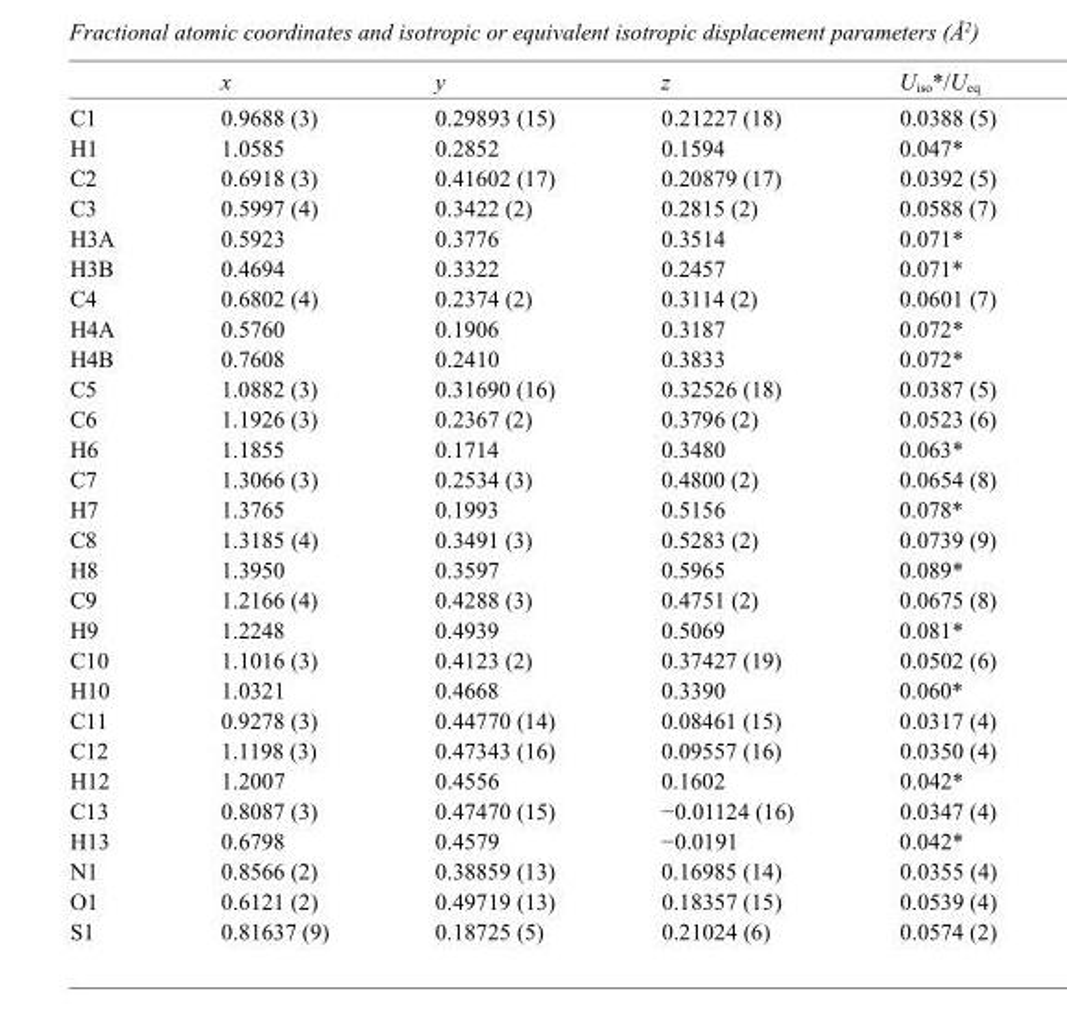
<table><thead><tr><td></td><td>x</td><td>y</td><td>z</td><td>U<sub>iso</sub>*/U<sub>eq</sub></td></tr></thead><tbody><tr><td>C1</td><td>0.9688 (3)</td><td>0.29893 (15)</td><td>0.21227 (18)</td><td>0.0388 (5)</td></tr><tr><td>H1</td><td>1.0585</td><td>0.2852</td><td>0.1594</td><td>0.047*</td></tr><tr><td>C2</td><td>0.6918 (3)</td><td>0.41602 (17)</td><td>0.20879 (17)</td><td>0.0392 (5)</td></tr><tr><td>C3</td><td>0.5997 (4)</td><td>0.3422 (2)</td><td>0.2815 (2)</td><td>0.0588 (7)</td></tr><tr><td>H3A</td><td>0.5923</td><td>0.3776</td><td>0.3514</td><td>0.071*</td></tr><tr><td>H3B</td><td>0.4694</td><td>0.3322</td><td>0.2457</td><td>0.071*</td></tr><tr><td>C4</td><td>0.6802 (4)</td><td>0.2374 (2)</td><td>0.3114 (2)</td><td>0.0601 (7)</td></tr><tr><td>H4A</td><td>0.5760</td><td>0.1906</td><td>0.3187</td><td>0.072*</td></tr><tr><td>H4B</td><td>0.7608</td><td>0.2410</td><td>0.3833</td><td>0.072*</td></tr><tr><td>C5</td><td>1.0882 (3)</td><td>0.31690 (16)</td><td>0.32526 (18)</td><td>0.0387 (5)</td></tr><tr><td>C6</td><td>1.1926 (3)</td><td>0.2367 (2)</td><td>0.3796 (2)</td><td>0.0523 (6)</td></tr><tr><td>H6</td><td>1.1855</td><td>0.1714</td><td>0.3480</td><td>0.063*</td></tr><tr><td>C7</td><td>1.3066 (3)</td><td>0.2534 (3)</td><td>0.4800 (2)</td><td>0.0654 (8)</td></tr><tr><td>H7</td><td>1.3765</td><td>0.1993</td><td>0.5156</td><td>0.078*</td></tr><tr><td>C8</td><td>1.3185 (4)</td><td>0.3491 (3)</td><td>0.5283 (2)</td><td>0.0739 (9)</td></tr><tr><td>H8</td><td>1.3950</td><td>0.3597</td><td>0.5965</td><td>0.089*</td></tr><tr><td>C9</td><td>1.2166 (4)</td><td>0.4288 (3)</td><td>0.4751 (2)</td><td>0.0675 (8)</td></tr><tr><td>H9</td><td>1.2248</td><td>0.4939</td><td>0.5069</td><td>0.081*</td></tr><tr><td>C10</td><td>1.1016 (3)</td><td>0.4123 (2)</td><td>0.37427 (19)</td><td>0.0502 (6)</td></tr><tr><td>H10</td><td>1.0321</td><td>0.4668</td><td>0.3390</td><td>0.060*</td></tr><tr><td>C11</td><td>0.9278 (3)</td><td>0.44770 (14)</td><td>0.08461 (15)</td><td>0.0317 (4)</td></tr><tr><td>C12</td><td>1.1198 (3)</td><td>0.47343 (16)</td><td>0.09557 (16)</td><td>0.0350 (4)</td></tr><tr><td>H12</td><td>1.2007</td><td>0.4556</td><td>0.1602</td><td>0.042*</td></tr><tr><td>C13</td><td>0.8087 (3)</td><td>0.47470 (15)</td><td>−0.01124 (16)</td><td>0.0347 (4)</td></tr><tr><td>H13</td><td>0.6798</td><td>0.4579</td><td>−0.0191</td><td>0.042*</td></tr><tr><td>N1</td><td>0.8566 (2)</td><td>0.38859 (13)</td><td>0.16985 (14)</td><td>0.0355 (4)</td></tr><tr><td>O1</td><td>0.6121 (2)</td><td>0.49719 (13)</td><td>0.18357 (15)</td><td>0.0539 (4)</td></tr><tr><td>S1</td><td>0.81637 (9)</td><td>0.18725 (5)</td><td>0.21024 (6)</td><td>0.0574 (2)</td></tr></tbody></table>